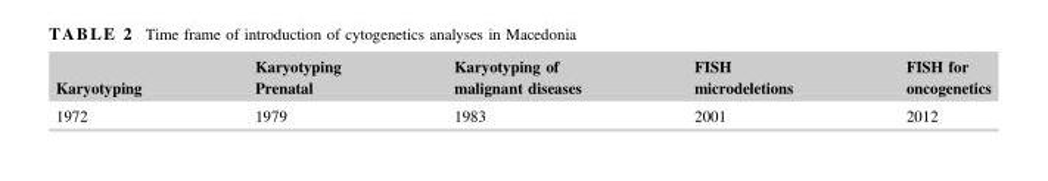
<table><thead><tr><td>Karyotyping</td><td>Karyotyping Prenatal</td><td>Karyotyping of malignant diseases</td><td>FISH microdeletions</td><td>FISH for oncogenetics</td></tr></thead><tbody><tr><td>1972</td><td>1979</td><td>1983</td><td>2001</td><td>2012</td></tr></tbody></table>